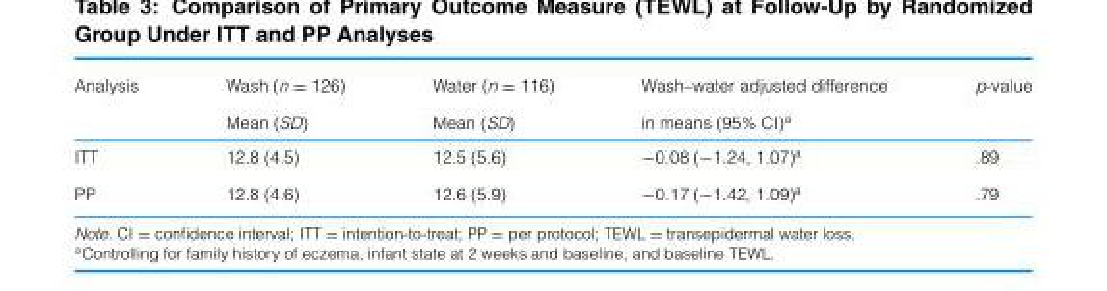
<table><thead><tr><td rowspan="2">Analysis</td><td rowspan="2">Wash (n = 126) Mean (SD)</td><td rowspan="2">Water (n = 116) Mean (SD)</td><td rowspan="2">Wash–water adjusted difference in means (95% CI)<sup>a</sup></td><td rowspan="2">p-value</td></tr><tr></tr></thead><tbody><tr><td>ITT</td><td>12.8 (4.5)</td><td>12.5 (5.6)</td><td>−0.08 (−1.24, 1.07)<sup>a</sup></td><td>.89</td></tr><tr><td>PP</td><td>12.8 (4.6)</td><td>12.6 (5.9)</td><td>−0.17 (−1.42, 1.09)<sup>a</sup></td><td>.79</td></tr></tbody></table>